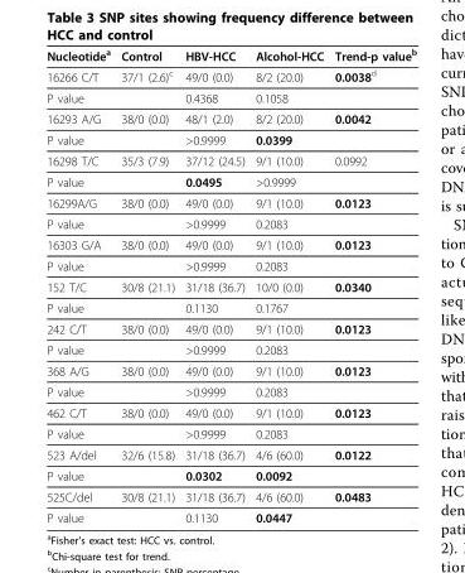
<table><thead><tr><td>Nucleotide<sup>a</sup></td><td>Control</td><td>HBV-HCC</td><td>Alcohol-HCC</td><td>Trend-p value<sup>b</sup></td></tr></thead><tbody><tr><td>16266 C/T</td><td>37/1 (2.6)<sup>c</sup></td><td>49/0 (0.0)</td><td>8/2 (20.0)</td><td>0.0038<sup>d</sup></td></tr><tr><td>P value</td><td></td><td>0.4368</td><td>0.1058</td><td></td></tr><tr><td>16293 A/G</td><td>38/0 (0.0)</td><td>48/1 (2.0)</td><td>8/2 (20.0)</td><td>0.0042</td></tr><tr><td>P value</td><td></td><td>&gt;0.9999</td><td>0.0399</td><td></td></tr><tr><td>16298 T/C</td><td>35/3 (7.9)</td><td>37/12 (24.5)</td><td>9/1 (10.0)</td><td>0.0992</td></tr><tr><td>P value</td><td></td><td>0.0495</td><td>&gt;0.9999</td><td></td></tr><tr><td>16299A/G</td><td>38/0 (0.0)</td><td>49/0 (0.0)</td><td>9/1 (10.0)</td><td>0.0123</td></tr><tr><td>P value</td><td></td><td>&gt;0.9999</td><td>0.2083</td><td></td></tr><tr><td>16303 G/A</td><td>38/0 (0.0)</td><td>49/0 (0.0)</td><td>9/1 (10.0)</td><td>0.0123</td></tr><tr><td>P value</td><td></td><td>&gt;0.9999</td><td>0.2083</td><td></td></tr><tr><td>152 T/C</td><td>30/8 (21.1)</td><td>31/18 (36.7)</td><td>10/0 (0.0)</td><td>0.0340</td></tr><tr><td>P value</td><td></td><td>0.1130</td><td>0.1767</td><td></td></tr><tr><td>242 C/T</td><td>38/0 (0.0)</td><td>49/0 (0.0)</td><td>9/1 (10.0)</td><td>0.0123</td></tr><tr><td>P value</td><td></td><td>&gt;0.9999</td><td>0.2083</td><td></td></tr><tr><td>368 A/G</td><td>38/0 (0.0)</td><td>49/0 (0.0)</td><td>9/1 (10.0)</td><td>0.0123</td></tr><tr><td>P value</td><td></td><td>&gt;0.9999</td><td>0.2083</td><td></td></tr><tr><td>462 C/T</td><td>38/0 (0.0)</td><td>49/0 (0.0)</td><td>9/1 (10.0)</td><td>0.0123</td></tr><tr><td>P value</td><td></td><td>&gt;0.9999</td><td>0.2083</td><td></td></tr><tr><td>523 A/del</td><td>32/6 (15.8)</td><td>31/18 (36.7)</td><td>4/6 (60.0)</td><td>0.0122</td></tr><tr><td>P value</td><td></td><td>0.0302</td><td>0.0092</td><td></td></tr><tr><td>525C/del</td><td>30/8 (21.1)</td><td>31/18 (36.7)</td><td>4/6 (60.0)</td><td>0.0483</td></tr><tr><td>P value</td><td></td><td>0.1130</td><td>0.0447</td><td></td></tr></tbody></table>